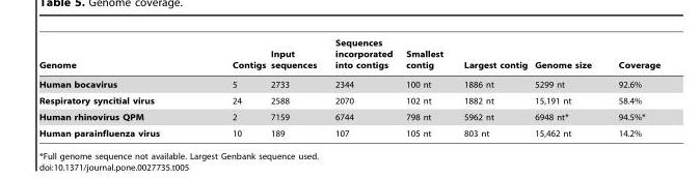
<table><thead><tr><td>Genome</td><td>Contigs</td><td>Input sequences</td><td>Sequences incorporated into contigs</td><td>Smallest contig</td><td>Largest contig</td><td>Genome size</td><td>Coverage</td></tr></thead><tbody><tr><td>Human bocavirus</td><td>5</td><td>2733</td><td>2344</td><td>100 nt</td><td>1886 nt</td><td>5299 nt</td><td>92.6%</td></tr><tr><td>Respiratory syncitial virus</td><td>24</td><td>2588</td><td>2070</td><td>102 nt</td><td>1882 nt</td><td>15,191 nt</td><td>58.4%</td></tr><tr><td>Human rhinovirus QPM</td><td>2</td><td>7159</td><td>6744</td><td>798 nt</td><td>5962 nt</td><td>6948 nt*</td><td>94.5%*</td></tr><tr><td>Human parainfluenza virus</td><td>10</td><td>189</td><td>107</td><td>105 nt</td><td>803 nt</td><td>15,462 nt</td><td>14.2%</td></tr></tbody></table>